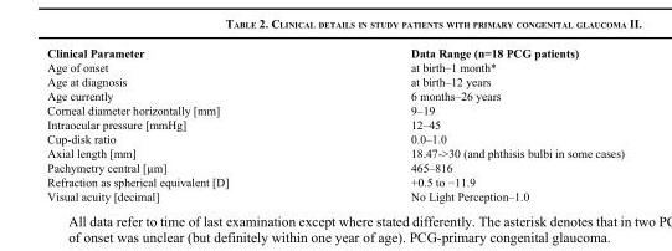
<table><thead><tr><td>Clinical Parameter</td><td>Data Range (n=18 PCG patients)</td></tr></thead><tbody><tr><td>Age of onset</td><td>at birth–1 month*</td></tr><tr><td>Age at diagnosis</td><td>at birth–12 years</td></tr><tr><td>Age currently</td><td>6 months–26 years</td></tr><tr><td>Corneal diameter horizontally [mm]</td><td>9–19</td></tr><tr><td>Intraocular pressure [mmHg]</td><td>12–45</td></tr><tr><td>Cup-disk ratio</td><td>0.0–1.0</td></tr><tr><td>Axial length [mm]</td><td>18.47-&gt;30 (and phthisis bulbi in some cases)</td></tr><tr><td>Pachymetry central [µm]</td><td>465–816</td></tr><tr><td>Refraction as spherical equivalent [D]</td><td>+0.5 to −11.9</td></tr><tr><td>Visual acuity [decimal]</td><td>No Light Perception–1.0</td></tr></tbody></table>